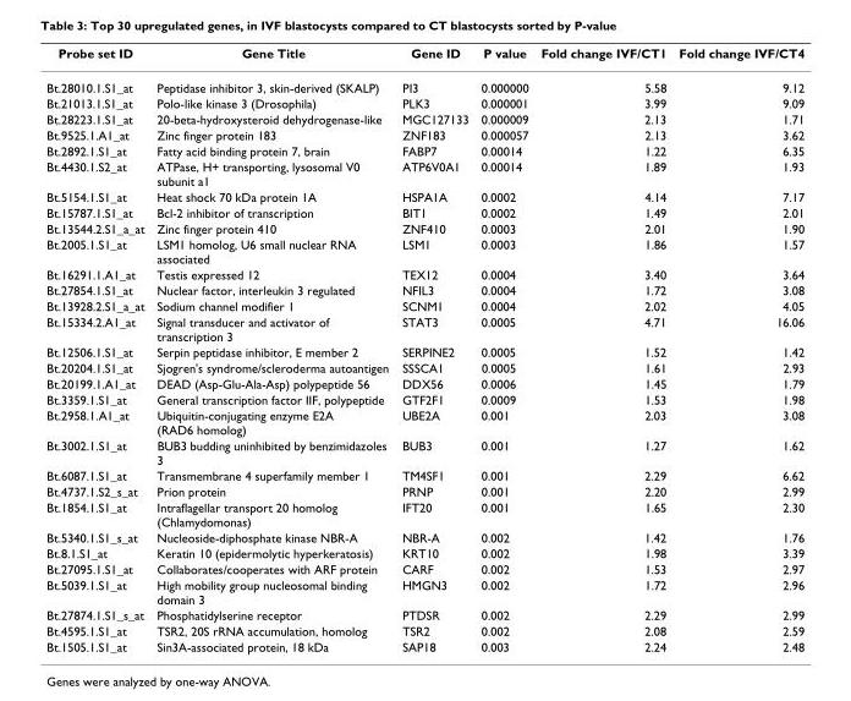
<table><thead><tr><td>Probe set ID</td><td>Gene Title</td><td>Gene ID</td><td>P value</td><td>Fold change IVF/CT1</td><td>Fold change IVF/CT4</td></tr></thead><tbody><tr><td>Bt.28010.1.S1_at</td><td>Peptidase inhibitor 3, skin-derived (SKALP)</td><td>PI3</td><td>0.000000</td><td>5.58</td><td>9.12</td></tr><tr><td>Bt.21013.1.S1_at</td><td>Polo-like kinase 3 (Drosophila)</td><td>PLK3</td><td>0.000001</td><td>3.99</td><td>9.09</td></tr><tr><td>Bt.28223.1.S1_at</td><td>20-beta-hydroxysteroid dehydrogenase-like</td><td>MGC127133</td><td>0.000009</td><td>2.13</td><td>1.71</td></tr><tr><td>Bt.9525.1.A1_at</td><td>Zinc finger protein 183</td><td>ZNF183</td><td>0.000057</td><td>2.13</td><td>3.62</td></tr><tr><td>Bt.2892.1.S1_at</td><td>Fatty acid binding protein 7, brain</td><td>FABP7</td><td>0.00014</td><td>1.22</td><td>6.35</td></tr><tr><td>Bt.4430.1.S2_at</td><td>ATPase, H+ transporting, lysosomal V0 subunit a1</td><td>ATP6V0A1</td><td>0.00014</td><td>1.89</td><td>1.93</td></tr><tr><td>Bt.5154.1.S1_at</td><td>Heat shock 70 kDa protein 1A</td><td>HSPA1A</td><td>0.0002</td><td>4.14</td><td>7.17</td></tr><tr><td>Bt.15787.1.S1_at</td><td>Bcl-2 inhibitor of transcription</td><td>BIT1</td><td>0.0002</td><td>1.49</td><td>2.01</td></tr><tr><td>Bt.13544.2.S1_a_at</td><td>Zinc finger protein 410</td><td>ZNF410</td><td>0.0003</td><td>2.01</td><td>1.90</td></tr><tr><td>Bt.2005.1.S1_at</td><td>LSM1 homolog, U6 small nuclear RNA associated</td><td>LSM1</td><td>0.0003</td><td>1.86</td><td>1.57</td></tr><tr><td>Bt.16291.1.A1_at</td><td>Testis expressed 12</td><td>TEX12</td><td>0.0004</td><td>3.40</td><td>3.64</td></tr><tr><td>Bt.27854.1.S1_at</td><td>Nuclear factor, interleukin 3 regulated</td><td>NFIL3</td><td>0.0004</td><td>1.72</td><td>3.08</td></tr><tr><td>Bt.13928.2.S1_a_at</td><td>Sodium channel modifier 1</td><td>SCNM1</td><td>0.0004</td><td>2.02</td><td>4.05</td></tr><tr><td>Bt.15334.2.A1_at</td><td>Signal transducer and activator of transcription 3</td><td>STAT3</td><td>0.0005</td><td>4.71</td><td>16.06</td></tr><tr><td>Bt.12506.1.S1_at</td><td>Serpin peptidase inhibitor, E member 2</td><td>SERPINE2</td><td>0.0005</td><td>1.52</td><td>1.42</td></tr><tr><td>Bt.20204.1.S1_at</td><td>Sjogren&#x27;s syndrome/scleroderma autoantigen</td><td>SSSCA1</td><td>0.0005</td><td>1.61</td><td>2.93</td></tr><tr><td>Bt.20199.1.A1_at</td><td>DEAD (Asp-Glu-Ala-Asp) polypeptide 56</td><td>DDX56</td><td>0.0006</td><td>1.45</td><td>1.79</td></tr><tr><td>Bt.3359.1.S1_at</td><td>General transcription factor IIF, polypeptide</td><td>GTF2F1</td><td>0.0009</td><td>1.53</td><td>1.98</td></tr><tr><td>Bt.2958.1.A1_at</td><td>Ubiquitin-conjugating enzyme E2A (RAD6 homolog)</td><td>UBE2A</td><td>0.001</td><td>2.03</td><td>3.08</td></tr><tr><td>Bt.3002.1.S1_at</td><td>BUB3 budding uninhibited by benzimidazoles 3</td><td>BUB3</td><td>0.001</td><td>1.27</td><td>1.62</td></tr><tr><td>Bt.6087.1.S1_at</td><td>Transmembrane 4 superfamily member 1</td><td>TM4SF1</td><td>0.001</td><td>2.29</td><td>6.62</td></tr><tr><td>Bt.4737.1.S2_s_at</td><td>Prion protein</td><td>PRNP</td><td>0.001</td><td>2.20</td><td>2.99</td></tr><tr><td>Bt.1854.1.S1_at</td><td>Intraflagellar transport 20 homolog (Chlamydomonas)</td><td>IFT20</td><td>0.001</td><td>1.65</td><td>2.30</td></tr><tr><td>Bt.5340.1.S1_s_at</td><td>Nucleoside-diphosphate kinase NBR-A</td><td>NBR-A</td><td>0.002</td><td>1.42</td><td>1.76</td></tr><tr><td>Bt.8.1.S1_at</td><td>Keratin 10 (epidermolytic hyperkeratosis)</td><td>KRT10</td><td>0.002</td><td>1.98</td><td>3.39</td></tr><tr><td>Bt.27095.1.S1_at</td><td>Collaborates/cooperates with ARF protein</td><td>CARF</td><td>0.002</td><td>1.53</td><td>2.97</td></tr><tr><td>Bt.5039.1.S1_at</td><td>High mobility group nucleosomal binding domain 3</td><td>HMGN3</td><td>0.002</td><td>1.72</td><td>2.96</td></tr><tr><td>Bt.27874.1.S1_s_at</td><td>Phosphatidylserine receptor</td><td>PTDSR</td><td>0.002</td><td>2.29</td><td>2.99</td></tr><tr><td>Bt.4595.1.S1_at</td><td>TSR2, 20S rRNA accumulation, homolog</td><td>TSR2</td><td>0.002</td><td>2.08</td><td>2.59</td></tr><tr><td>Bt.1505.1.S1_at</td><td>Sin3A-associated protein, 18 kDa</td><td>SAP18</td><td>0.003</td><td>2.24</td><td>2.48</td></tr></tbody></table>